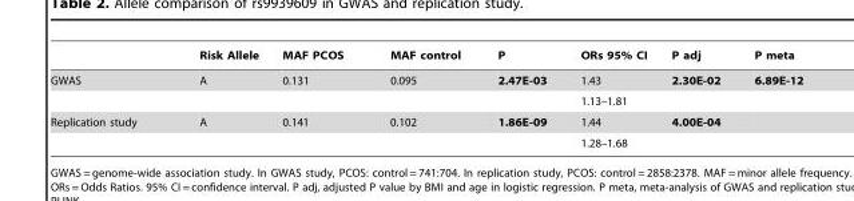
<table><thead><tr><td></td><td>Risk Allele</td><td>MAF PCOS</td><td>MAF control</td><td>P</td><td>ORs 95% CI</td><td>P adj</td><td>P meta</td></tr></thead><tbody><tr><td rowspan="2">GWAS</td><td>A</td><td>0.131</td><td>0.095</td><td>2.47E-03</td><td>1.43</td><td>2.30E-02</td><td>6.89E-12</td></tr><tr><td></td><td></td><td></td><td></td><td>1.13–1.81</td><td></td><td></td></tr><tr><td rowspan="2">Replication study</td><td>A</td><td>0.141</td><td>0.102</td><td>1.86E-09</td><td>1.44</td><td>4.00E-04</td><td></td></tr><tr><td></td><td></td><td></td><td></td><td>1.28–1.68</td><td></td><td></td></tr></tbody></table>